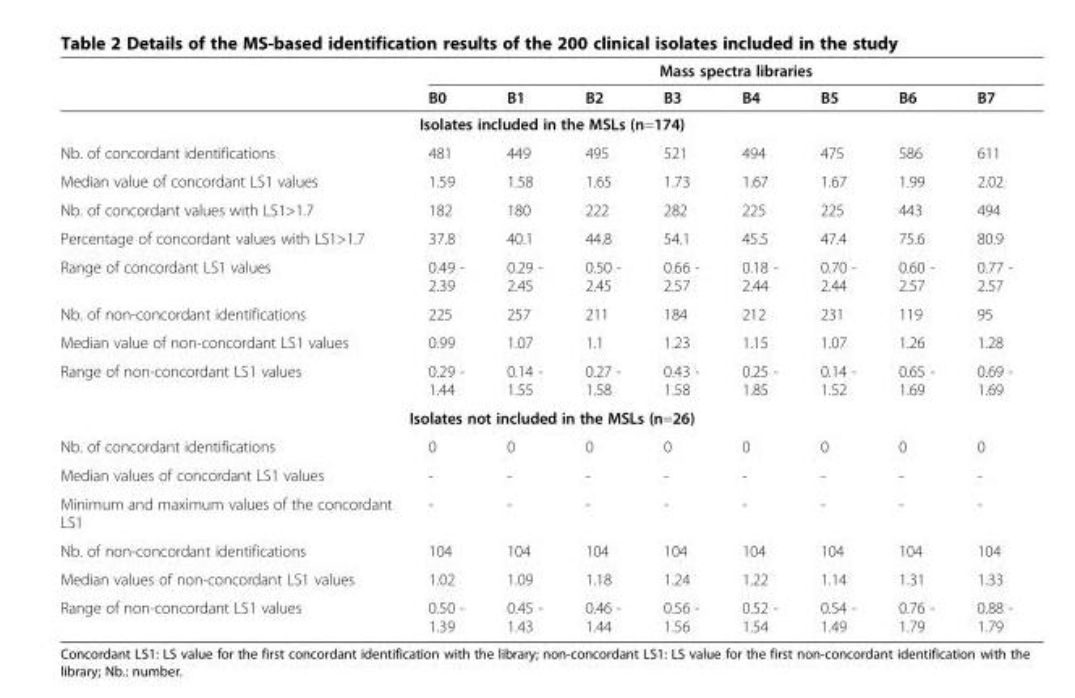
<table><thead><tr><td rowspan="2"></td><td colspan="8">Mass spectra libraries</td></tr><tr><td>B0</td><td>B1</td><td>B2</td><td>B3</td><td>B4</td><td>B5</td><td>B6</td><td>B7</td></tr></thead><tbody><tr><td colspan="9">Isolates included in the MSLs (n=174)</td></tr><tr><td>Nb. of concordant identifications</td><td>481</td><td>449</td><td>495</td><td>521</td><td>494</td><td>475</td><td>586</td><td>611</td></tr><tr><td>Median value of concordant LS1 values</td><td>1.59</td><td>1.58</td><td>1.65</td><td>1.73</td><td>1.67</td><td>1.67</td><td>1.99</td><td>2.02</td></tr><tr><td>Nb. of concordant values with LS1&gt;1.7</td><td>182</td><td>180</td><td>222</td><td>282</td><td>225</td><td>225</td><td>443</td><td>494</td></tr><tr><td>Percentage of concordant values with LS1&gt;1.7</td><td>37.8</td><td>40.1</td><td>44.8</td><td>54.1</td><td>45.5</td><td>47.4</td><td>75.6</td><td>80.9</td></tr><tr><td>Range of concordant LS1 values</td><td>0.49 - 2.39</td><td>0.29 - 2.45</td><td>0.50 - 2.45</td><td>0.66 - 2.57</td><td>0.18 - 2.44</td><td>0.70 - 2.44</td><td>0.60 - 2.57</td><td>0.77 - 2.57</td></tr><tr><td>Nb. of non-concordant identifications</td><td>225</td><td>257</td><td>211</td><td>184</td><td>212</td><td>231</td><td>119</td><td>95</td></tr><tr><td>Median value of non-concordant LS1 values</td><td>0.99</td><td>1.07</td><td>1.1</td><td>1.23</td><td>1.15</td><td>1.07</td><td>1.26</td><td>1.28</td></tr><tr><td>Range of non-concordant LS1 values</td><td>0.29 - 1.44</td><td>0.14 - 1.55</td><td>0.27 - 1.58</td><td>0.43 - 1.58</td><td>0.25 - 1.85</td><td>0.14 - 1.52</td><td>0.65 - 1.69</td><td>0.69 - 1.69</td></tr><tr><td colspan="9">Isolates not included in the MSLs (n=26)</td></tr><tr><td>Nb. of concordant identifications</td><td>0</td><td>0</td><td>0</td><td>0</td><td>0</td><td>0</td><td>0</td><td>0</td></tr><tr><td>Median values of concordant LS1 values</td><td>-</td><td>-</td><td>-</td><td>-</td><td>-</td><td>-</td><td>-</td><td>-</td></tr><tr><td>Minimum and maximum values of the concordant LS1</td><td>-</td><td>-</td><td>-</td><td>-</td><td>-</td><td>-</td><td>-</td><td>-</td></tr><tr><td>Nb. of non-concordant identifications</td><td>104</td><td>104</td><td>104</td><td>104</td><td>104</td><td>104</td><td>104</td><td>104</td></tr><tr><td>Median values of non-concordant LS1 values</td><td>1.02</td><td>1.09</td><td>1.18</td><td>1.24</td><td>1.22</td><td>1.14</td><td>1.31</td><td>1.33</td></tr><tr><td>Range of non-concordant LS1 values</td><td>0.50 - 1.39</td><td>0.45 - 1.43</td><td>0.46 - 1.44</td><td>0.56 - 1.56</td><td>0.52 - 1.54</td><td>0.54 - 1.49</td><td>0.76 - 1.79</td><td>0.88 - 1.79</td></tr></tbody></table>